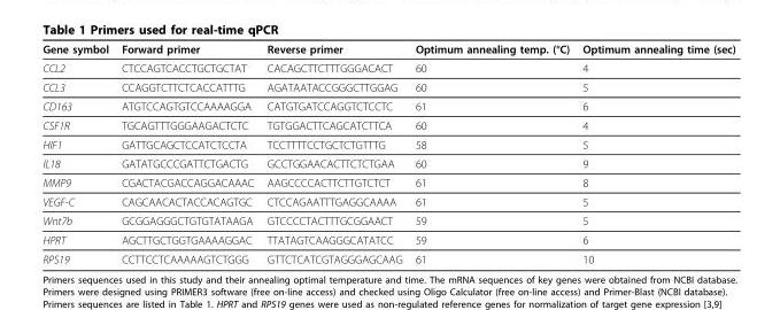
<table><thead><tr><td>Gene symbol</td><td>Forward primer</td><td>Reverse primer</td><td>Optimum annealing temp. (°C)</td><td>Optimum annealing time (sec)</td></tr></thead><tbody><tr><td>CCL2</td><td>CTCCAGTCACCTGCTGCTAT</td><td>CACAGCTTCTTTGGGACACT</td><td>60</td><td>4</td></tr><tr><td>CCL3</td><td>CCAGGTCTTCTCACCATTTG</td><td>AGATAATACCGGGCTTGGAG</td><td>60</td><td>5</td></tr><tr><td>CD163</td><td>ATGTCCAGTGTCCAAAAGGA</td><td>CATGTGATCCAGGTCTCCTC</td><td>61</td><td>6</td></tr><tr><td>CSF1R</td><td>TGCAGTTTGGGAAGACTCTC</td><td>TGTGGACTTCAGCATCTTCA</td><td>60</td><td>4</td></tr><tr><td>HIF1</td><td>GATTGCAGCTCCATCTCCTA</td><td>TCCTTTTCCTGCTCTGTTTG</td><td>58</td><td>5</td></tr><tr><td>IL18</td><td>GATATGCCCGATTCTGACTG</td><td>GCCTGGAACACTTCTCTGAA</td><td>60</td><td>9</td></tr><tr><td>MMP9</td><td>CGACTACGACCAGGACAAAC</td><td>AAGCCCCACTTCTTGTCTCT</td><td>61</td><td>8</td></tr><tr><td>VEGF-C</td><td>CAGCAACACTACCACAGTGC</td><td>CTCCAGAATTTGAGGCAAAA</td><td>61</td><td>5</td></tr><tr><td>Wnt7b</td><td>GCGGAGGGCTGTGTATAAGA</td><td>GTCCCCTACTTTGCGGAACT</td><td>59</td><td>5</td></tr><tr><td>HPRT</td><td>AGCTTGCTGGTGAAAAGGAC</td><td>TTATAGTCAAGGGCATATCC</td><td>59</td><td>6</td></tr><tr><td>RPS19</td><td>CCTTCCTCAAAAAGTCTGGG</td><td>GTTCTCATCGTAGGGAGCAAG</td><td>61</td><td>10</td></tr></tbody></table>